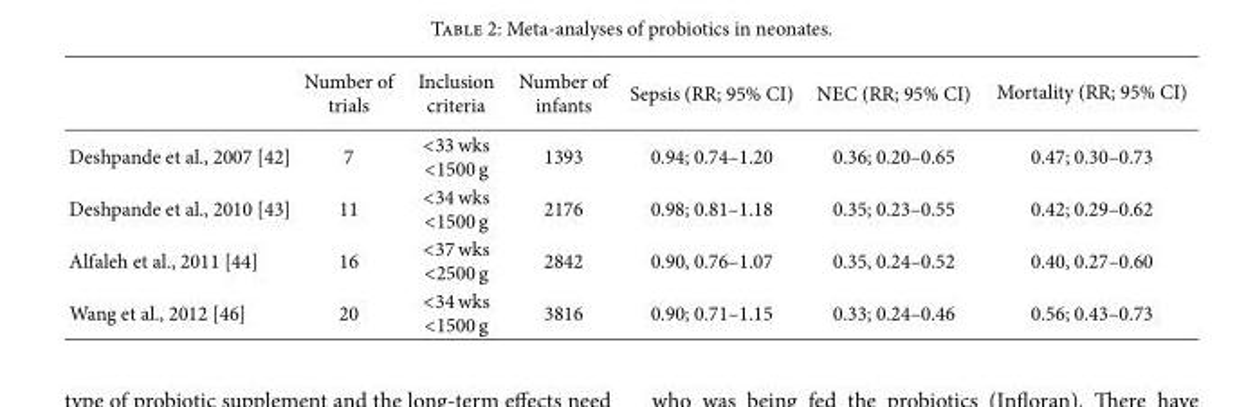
<table><thead><tr><td></td><td>Number of trials</td><td>Inclusion criteria</td><td>Number of infants</td><td>Sepsis (RR; 95% CI)</td><td>NEC (RR; 95% CI)</td><td>Mortality (RR; 95% CI)</td></tr></thead><tbody><tr><td>Deshpande et al., 2007 [42]</td><td>7</td><td>&lt;33 wks &lt;1500 g</td><td>1393</td><td>0.94; 0.74–1.20</td><td>0.36; 0.20–0.65</td><td>0.47; 0.30–0.73</td></tr><tr><td>Deshpande et al., 2010 [43]</td><td>11</td><td>&lt;34 wks &lt;1500 g</td><td>2176</td><td>0.98; 0.81–1.18</td><td>0.35; 0.23–0.55</td><td>0.42; 0.29–0.62</td></tr><tr><td>Alfaleh et al., 2011 [44]</td><td>16</td><td>&lt;37 wks &lt;2500 g</td><td>2842</td><td>0.90, 0.76–1.07</td><td>0.35, 0.24–0.52</td><td>0.40, 0.27–0.60</td></tr><tr><td>Wang et al., 2012 [46]</td><td>20</td><td>&lt;34 wks &lt;1500 g</td><td>3816</td><td>0.90; 0.71–1.15</td><td>0.33; 0.24–0.46</td><td>0.56; 0.43–0.73</td></tr></tbody></table>